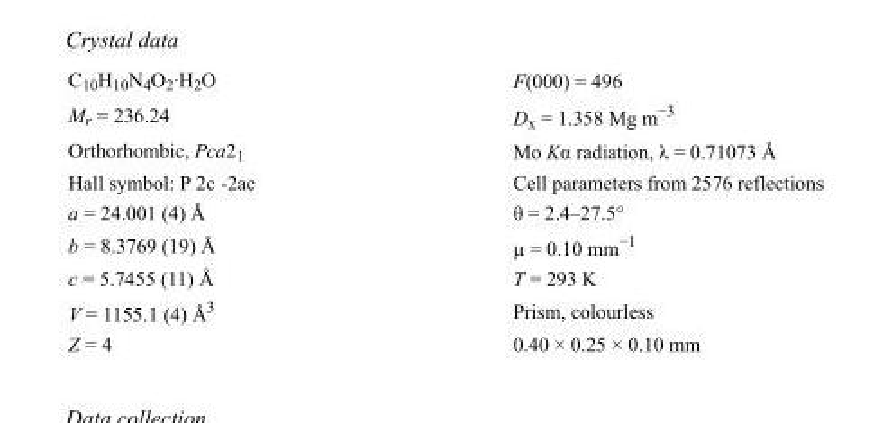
<table><tbody><tr><td>C<sub>10</sub>H<sub>10</sub>N<sub>4</sub>O<sub>2</sub>·H<sub>2</sub>O</td><td>F(000) = 496</td></tr><tr><td>M<sub>r</sub> = 236.24</td><td>D<sub>x</sub> = 1.358 Mg m<sup>−3</sup></td></tr><tr><td>Orthorhombic, Pca2<sub>1</sub></td><td>Mo Kα radiation, λ = 0.71073 Å</td></tr><tr><td>Hall symbol: P 2c -2ac</td><td>Cell parameters from 2576 reflections</td></tr><tr><td>a = 24.001 (4) Å</td><td>θ = 2.4–27.5°</td></tr><tr><td>b = 8.3769 (19) Å</td><td>µ = 0.10 mm<sup>−1</sup></td></tr><tr><td>c = 5.7455 (11) Å</td><td>T = 293 K</td></tr><tr><td>V = 1155.1 (4) Å<sup>3</sup></td><td>Prism, colourless</td></tr><tr><td>Z = 4</td><td>0.40 × 0.25 × 0.10 mm</td></tr></tbody></table>